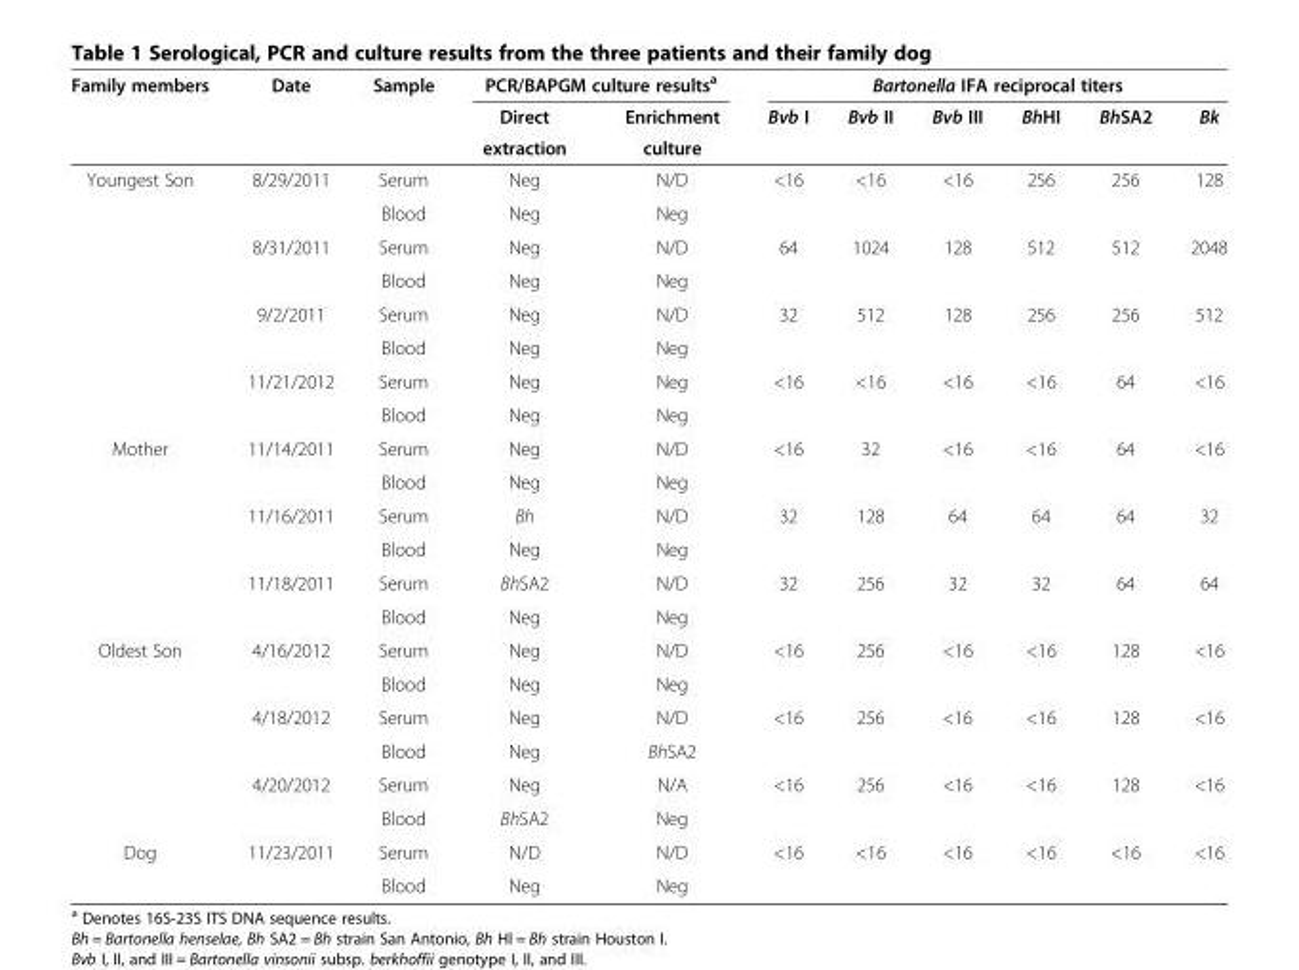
<table><thead><tr><td rowspan="3">Family members</td><td rowspan="3">Date</td><td rowspan="3">Sample</td><td colspan="2">PCR/BAPGM culture results<sup>a</sup></td><td colspan="6">Bartonella IFA reciprocal titers</td></tr><tr><td rowspan="2">Direct extraction</td><td rowspan="2">Enrichment culture</td><td rowspan="2">Bvb I</td><td rowspan="2">Bvb II</td><td rowspan="2">Bvb III</td><td rowspan="2">BhHI</td><td rowspan="2">BhSA2</td><td rowspan="2">Bk</td></tr><tr></tr></thead><tbody><tr><td rowspan="8">Youngest Son</td><td>8/29/2011</td><td>Serum</td><td>Neg</td><td>N/D</td><td>&lt;16</td><td>&lt;16</td><td>&lt;16</td><td>256</td><td>256</td><td>128</td></tr><tr><td></td><td>Blood</td><td>Neg</td><td>Neg</td><td></td><td></td><td></td><td></td><td></td><td></td></tr><tr><td>8/31/2011</td><td>Serum</td><td>Neg</td><td>N/D</td><td>64</td><td>1024</td><td>128</td><td>512</td><td>512</td><td>2048</td></tr><tr><td></td><td>Blood</td><td>Neg</td><td>Neg</td><td></td><td></td><td></td><td></td><td></td><td></td></tr><tr><td>9/2/2011</td><td>Serum</td><td>Neg</td><td>N/D</td><td>32</td><td>512</td><td>128</td><td>256</td><td>256</td><td>512</td></tr><tr><td></td><td>Blood</td><td>Neg</td><td>Neg</td><td></td><td></td><td></td><td></td><td></td><td></td></tr><tr><td>11/21/2012</td><td>Serum</td><td>Neg</td><td>Neg</td><td>&lt;16</td><td>&lt;16</td><td>&lt;16</td><td>&lt;16</td><td>64</td><td>&lt;16</td></tr><tr><td></td><td>Blood</td><td>Neg</td><td>Neg</td><td></td><td></td><td></td><td></td><td></td><td></td></tr><tr><td rowspan="6">Mother</td><td>11/14/2011</td><td>Serum</td><td>Neg</td><td>N/D</td><td>&lt;16</td><td>32</td><td>&lt;16</td><td>&lt;16</td><td>64</td><td>&lt;16</td></tr><tr><td></td><td>Blood</td><td>Neg</td><td>Neg</td><td></td><td></td><td></td><td></td><td></td><td></td></tr><tr><td>11/16/2011</td><td>Serum</td><td>Bh</td><td>N/D</td><td>32</td><td>128</td><td>64</td><td>64</td><td>64</td><td>32</td></tr><tr><td></td><td>Blood</td><td>Neg</td><td>Neg</td><td></td><td></td><td></td><td></td><td></td><td></td></tr><tr><td>11/18/2011</td><td>Serum</td><td>BhSA2</td><td>N/D</td><td>32</td><td>256</td><td>32</td><td>32</td><td>64</td><td>64</td></tr><tr><td></td><td>Blood</td><td>Neg</td><td>Neg</td><td></td><td></td><td></td><td></td><td></td><td></td></tr><tr><td rowspan="6">Oldest Son</td><td>4/16/2012</td><td>Serum</td><td>Neg</td><td>N/D</td><td>&lt;16</td><td>256</td><td>&lt;16</td><td>&lt;16</td><td>128</td><td>&lt;16</td></tr><tr><td></td><td>Blood</td><td>Neg</td><td>Neg</td><td></td><td></td><td></td><td></td><td></td><td></td></tr><tr><td>4/18/2012</td><td>Serum</td><td>Neg</td><td>N/D</td><td>&lt;16</td><td>256</td><td>&lt;16</td><td>&lt;16</td><td>128</td><td>&lt;16</td></tr><tr><td></td><td>Blood</td><td>Neg</td><td>BhSA2</td><td></td><td></td><td></td><td></td><td></td><td></td></tr><tr><td>4/20/2012</td><td>Serum</td><td>Neg</td><td>N/A</td><td>&lt;16</td><td>256</td><td>&lt;16</td><td>&lt;16</td><td>128</td><td>&lt;16</td></tr><tr><td></td><td>Blood</td><td>BhSA2</td><td>Neg</td><td></td><td></td><td></td><td></td><td></td><td></td></tr><tr><td rowspan="2">Dog</td><td>11/23/2011</td><td>Serum</td><td>N/D</td><td>N/D</td><td>&lt;16</td><td>&lt;16</td><td>&lt;16</td><td>&lt;16</td><td>&lt;16</td><td>&lt;16</td></tr><tr><td></td><td>Blood</td><td>Neg</td><td>Neg</td><td></td><td></td><td></td><td></td><td></td><td></td></tr></tbody></table>